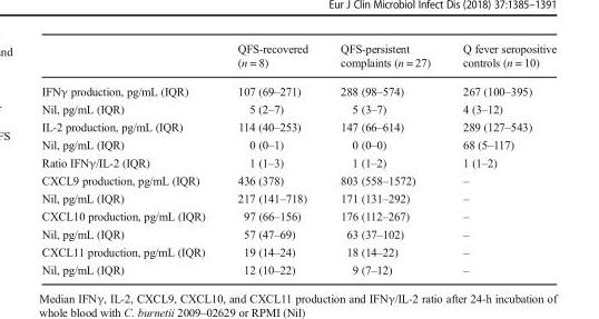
<table><thead><tr><td></td><td>QFS-recovered (n = 8)</td><td>QFS-persistent complaints (n = 27)</td><td>Q fever seropositive controls (n = 10)</td></tr></thead><tbody><tr><td>IFNγ production, pg/mL (IQR)</td><td>107 (69–271)</td><td>288 (98–574)</td><td>267 (100–395)</td></tr><tr><td>Nil, pg/mL (IQR)</td><td>5 (2–7)</td><td>5 (3–7)</td><td>4 (3–12)</td></tr><tr><td>IL-2 production, pg/mL (IQR)</td><td>114 (40–253)</td><td>147 (66–614)</td><td>289 (127–543)</td></tr><tr><td>Nil, pg/mL (IQR)</td><td>0 (0–1)</td><td>0 (0–0)</td><td>68 (5–117)</td></tr><tr><td>Ratio IFNγ/IL-2 (IQR)</td><td>1 (1–3)</td><td>1 (1–2)</td><td>1 (1–2)</td></tr><tr><td>CXCL9 production, pg/mL (IQR)</td><td>436 (378)</td><td>803 (558–1572)</td><td>–</td></tr><tr><td>Nil, pg/mL (IQR)</td><td>217 (141–718)</td><td>171 (131–292)</td><td>–</td></tr><tr><td>CXCL10 production, pg/mL (IQR)</td><td>97 (66–156)</td><td>176 (112–267)</td><td>–</td></tr><tr><td>Nil, pg/mL (IQR)</td><td>57 (47–69)</td><td>63 (37–102)</td><td>–</td></tr><tr><td>CXCL11 production, pg/mL (IQR)</td><td>19 (14–24)</td><td>18 (14–22)</td><td>–</td></tr><tr><td>Nil, pg/mL (IQR)</td><td>12 (10–22)</td><td>9 (7–12)</td><td>–</td></tr></tbody></table>